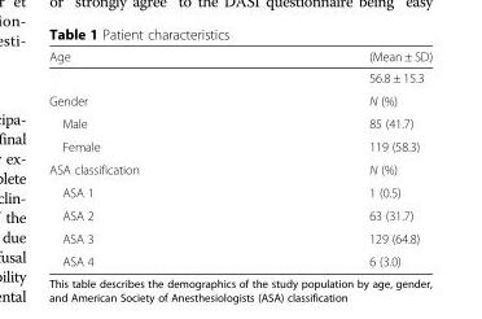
<table><thead><tr><td>Age</td><td>(Mean ± SD)</td></tr></thead><tbody><tr><td></td><td>56.8 ± 15.3</td></tr><tr><td>Gender</td><td>N (%)</td></tr><tr><td>Male</td><td>85 (41.7)</td></tr><tr><td>Female</td><td>119 (58.3)</td></tr><tr><td>ASA classification</td><td>N (%)</td></tr><tr><td>ASA 1</td><td>1 (0.5)</td></tr><tr><td>ASA 2</td><td>63 (31.7)</td></tr><tr><td>ASA 3</td><td>129 (64.8)</td></tr><tr><td>ASA 4</td><td>6 (3.0)</td></tr></tbody></table>